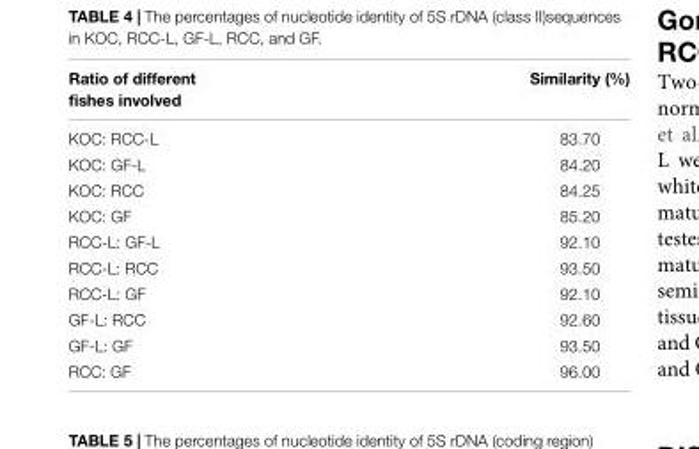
<table><thead><tr><td>Ratio of different fishes involved</td><td>Similarity (%)</td></tr></thead><tbody><tr><td>KOC: RCC-L</td><td>83.70</td></tr><tr><td>KOC: GF-L</td><td>84.20</td></tr><tr><td>KOC: RCC</td><td>84.25</td></tr><tr><td>KOC: GF</td><td>85.20</td></tr><tr><td>RCC-L: GF-L</td><td>92.10</td></tr><tr><td>RCC-L: RCC</td><td>93.50</td></tr><tr><td>RCC-L: GF</td><td>92.10</td></tr><tr><td>GF-L: RCC</td><td>92.60</td></tr><tr><td>GF-L: GF</td><td>93.50</td></tr><tr><td>RCC: GF</td><td>96.00</td></tr></tbody></table>